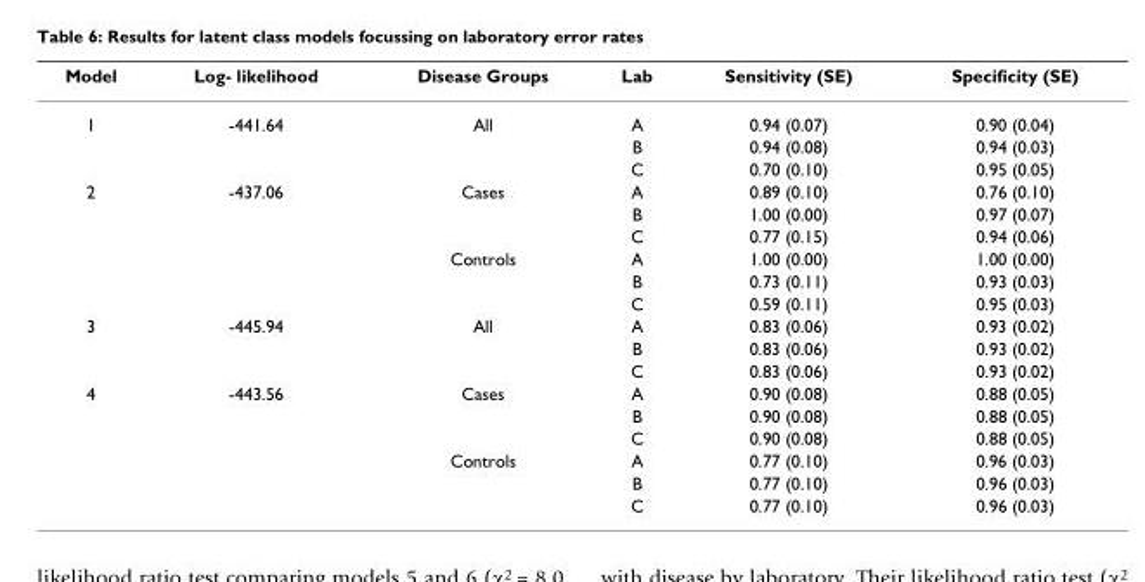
<table><thead><tr><td>Model</td><td>Log- likelihood</td><td>Disease Groups</td><td>Lab</td><td>Sensitivity (SE)</td><td>Specificity (SE)</td></tr></thead><tbody><tr><td rowspan="3">1</td><td>-441.64</td><td>All</td><td>A</td><td>0.94 (0.07)</td><td>0.90 (0.04)</td></tr><tr><td></td><td></td><td>B</td><td>0.94 (0.08)</td><td>0.94 (0.03)</td></tr><tr><td></td><td></td><td>C</td><td>0.70 (0.10)</td><td>0.95 (0.05)</td></tr><tr><td rowspan="6">2</td><td>-437.06</td><td>Cases</td><td>A</td><td>0.89 (0.10)</td><td>0.76 (0.10)</td></tr><tr><td></td><td></td><td>B</td><td>1.00 (0.00)</td><td>0.97 (0.07)</td></tr><tr><td></td><td></td><td>C</td><td>0.77 (0.15)</td><td>0.94 (0.06)</td></tr><tr><td></td><td>Controls</td><td>A</td><td>1.00 (0.00)</td><td>1.00 (0.00)</td></tr><tr><td></td><td></td><td>B</td><td>0.73 (0.11)</td><td>0.93 (0.03)</td></tr><tr><td></td><td></td><td>C</td><td>0.59 (0.11)</td><td>0.95 (0.03)</td></tr><tr><td rowspan="3">3</td><td>-445.94</td><td>All</td><td>A</td><td>0.83 (0.06)</td><td>0.93 (0.02)</td></tr><tr><td></td><td></td><td>B</td><td>0.83 (0.06)</td><td>0.93 (0.02)</td></tr><tr><td></td><td></td><td>C</td><td>0.83 (0.06)</td><td>0.93 (0.02)</td></tr><tr><td rowspan="6">4</td><td>-443.56</td><td>Cases</td><td>A</td><td>0.90 (0.08)</td><td>0.88 (0.05)</td></tr><tr><td></td><td></td><td>B</td><td>0.90 (0.08)</td><td>0.88 (0.05)</td></tr><tr><td></td><td></td><td>C</td><td>0.90 (0.08)</td><td>0.88 (0.05)</td></tr><tr><td></td><td>Controls</td><td>A</td><td>0.77 (0.10)</td><td>0.96 (0.03)</td></tr><tr><td></td><td></td><td>B</td><td>0.77 (0.10)</td><td>0.96 (0.03)</td></tr><tr><td></td><td></td><td>C</td><td>0.77 (0.10)</td><td>0.96 (0.03)</td></tr></tbody></table>